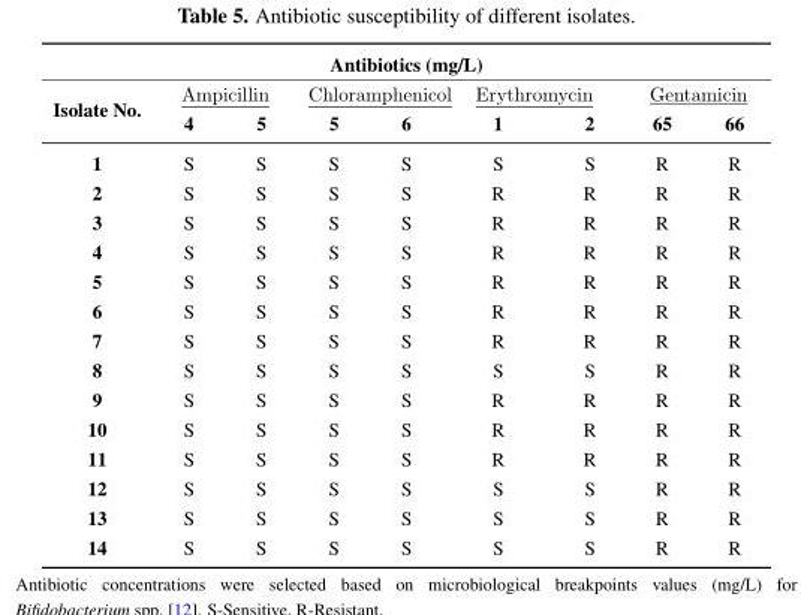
<table><thead><tr><td colspan="9">Antibiotics (mg/L)</td></tr><tr><td rowspan="2">Isolate No.</td><td colspan="2">Ampicillin</td><td colspan="2">Chloramphenicol</td><td colspan="2">Erythromycin</td><td colspan="2">Gentamicin</td></tr><tr><td>4</td><td>5</td><td>5</td><td>6</td><td>1</td><td>2</td><td>65</td><td>66</td></tr></thead><tbody><tr><td>1</td><td>S</td><td>S</td><td>S</td><td>S</td><td>S</td><td>S</td><td>R</td><td>R</td></tr><tr><td>2</td><td>S</td><td>S</td><td>S</td><td>S</td><td>R</td><td>R</td><td>R</td><td>R</td></tr><tr><td>3</td><td>S</td><td>S</td><td>S</td><td>S</td><td>R</td><td>R</td><td>R</td><td>R</td></tr><tr><td>4</td><td>S</td><td>S</td><td>S</td><td>S</td><td>R</td><td>R</td><td>R</td><td>R</td></tr><tr><td>5</td><td>S</td><td>S</td><td>S</td><td>S</td><td>R</td><td>R</td><td>R</td><td>R</td></tr><tr><td>6</td><td>S</td><td>S</td><td>S</td><td>S</td><td>R</td><td>R</td><td>R</td><td>R</td></tr><tr><td>7</td><td>S</td><td>S</td><td>S</td><td>S</td><td>R</td><td>R</td><td>R</td><td>R</td></tr><tr><td>8</td><td>S</td><td>S</td><td>S</td><td>S</td><td>S</td><td>S</td><td>R</td><td>R</td></tr><tr><td>9</td><td>S</td><td>S</td><td>S</td><td>S</td><td>R</td><td>R</td><td>R</td><td>R</td></tr><tr><td>10</td><td>S</td><td>S</td><td>S</td><td>S</td><td>R</td><td>R</td><td>R</td><td>R</td></tr><tr><td>11</td><td>S</td><td>S</td><td>S</td><td>S</td><td>R</td><td>R</td><td>R</td><td>R</td></tr><tr><td>12</td><td>S</td><td>S</td><td>S</td><td>S</td><td>S</td><td>S</td><td>R</td><td>R</td></tr><tr><td>13</td><td>S</td><td>S</td><td>S</td><td>S</td><td>S</td><td>S</td><td>R</td><td>R</td></tr><tr><td>14</td><td>S</td><td>S</td><td>S</td><td>S</td><td>S</td><td>S</td><td>R</td><td>R</td></tr></tbody></table>